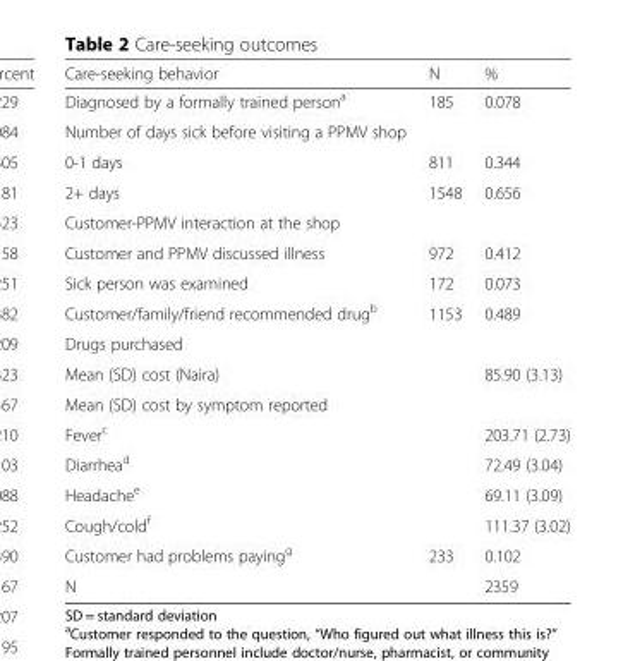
<table><thead><tr><td>Care-seeking behavior</td><td>N</td><td>%</td></tr></thead><tbody><tr><td>Diagnosed by a formally trained person<sup>a</sup></td><td>185</td><td>0.078</td></tr><tr><td colspan="3">Number of days sick before visiting a PPMV shop</td></tr><tr><td>0-1 days</td><td>811</td><td>0.344</td></tr><tr><td>2+ days</td><td>1548</td><td>0.656</td></tr><tr><td colspan="3">Customer-PPMV interaction at the shop</td></tr><tr><td>Customer and PPMV discussed illness</td><td>972</td><td>0.412</td></tr><tr><td>Sick person was examined</td><td>172</td><td>0.073</td></tr><tr><td>Customer/family/friend recommended drug<sup>b</sup></td><td>1153</td><td>0.489</td></tr><tr><td colspan="3">Drugs purchased</td></tr><tr><td>Mean (SD) cost (Naira)</td><td></td><td>85.90 (3.13)</td></tr><tr><td colspan="3">Mean (SD) cost by symptom reported</td></tr><tr><td>Fever<sup>c</sup></td><td></td><td>203.71 (2.73)</td></tr><tr><td>Diarrhea<sup>d</sup></td><td></td><td>72.49 (3.04)</td></tr><tr><td>Headache<sup>e</sup></td><td></td><td>69.11 (3.09)</td></tr><tr><td>Cough/cold<sup>f</sup></td><td></td><td>111.37 (3.02)</td></tr><tr><td>Customer had problems paying<sup>g</sup></td><td>233</td><td>0.102</td></tr><tr><td>N</td><td></td><td>2359</td></tr></tbody></table>